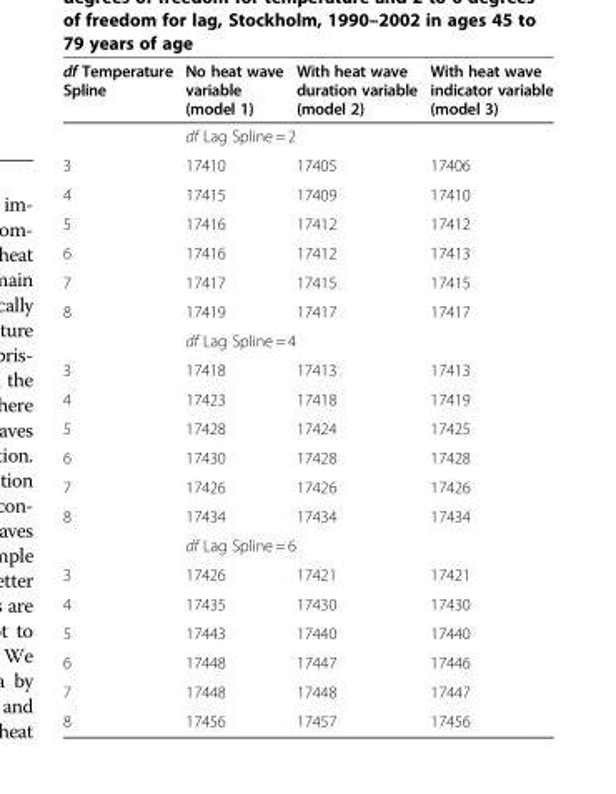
<table><thead><tr><td>df Temperature Spline</td><td>No heat wave variable (model 1)</td><td>With heat wave duration variable (model 2)</td><td>With heat wave indicator variable (model 3)</td></tr></thead><tbody><tr><td></td><td colspan="3">df Lag Spline = 2</td></tr><tr><td>3</td><td>17410</td><td>17405</td><td>17406</td></tr><tr><td>4</td><td>17415</td><td>17409</td><td>17410</td></tr><tr><td>5</td><td>17416</td><td>17412</td><td>17412</td></tr><tr><td>6</td><td>17416</td><td>17412</td><td>17413</td></tr><tr><td>7</td><td>17417</td><td>17415</td><td>17415</td></tr><tr><td rowspan="2">8</td><td>17419</td><td>17417</td><td>17417</td></tr><tr><td colspan="3">df Lag Spline = 4</td></tr><tr><td>3</td><td>17418</td><td>17413</td><td>17413</td></tr><tr><td>4</td><td>17423</td><td>17418</td><td>17419</td></tr><tr><td>5</td><td>17428</td><td>17424</td><td>17425</td></tr><tr><td>6</td><td>17430</td><td>17428</td><td>17428</td></tr><tr><td>7</td><td>17426</td><td>17426</td><td>17426</td></tr><tr><td rowspan="2">8</td><td>17434</td><td>17434</td><td>17434</td></tr><tr><td colspan="3">df Lag Spline = 6</td></tr><tr><td>3</td><td>17426</td><td>17421</td><td>17421</td></tr><tr><td>4</td><td>17435</td><td>17430</td><td>17430</td></tr><tr><td>5</td><td>17443</td><td>17440</td><td>17440</td></tr><tr><td>6</td><td>17448</td><td>17447</td><td>17446</td></tr><tr><td>7</td><td>17448</td><td>17448</td><td>17447</td></tr><tr><td>8</td><td>17456</td><td>17457</td><td>17456</td></tr></tbody></table>